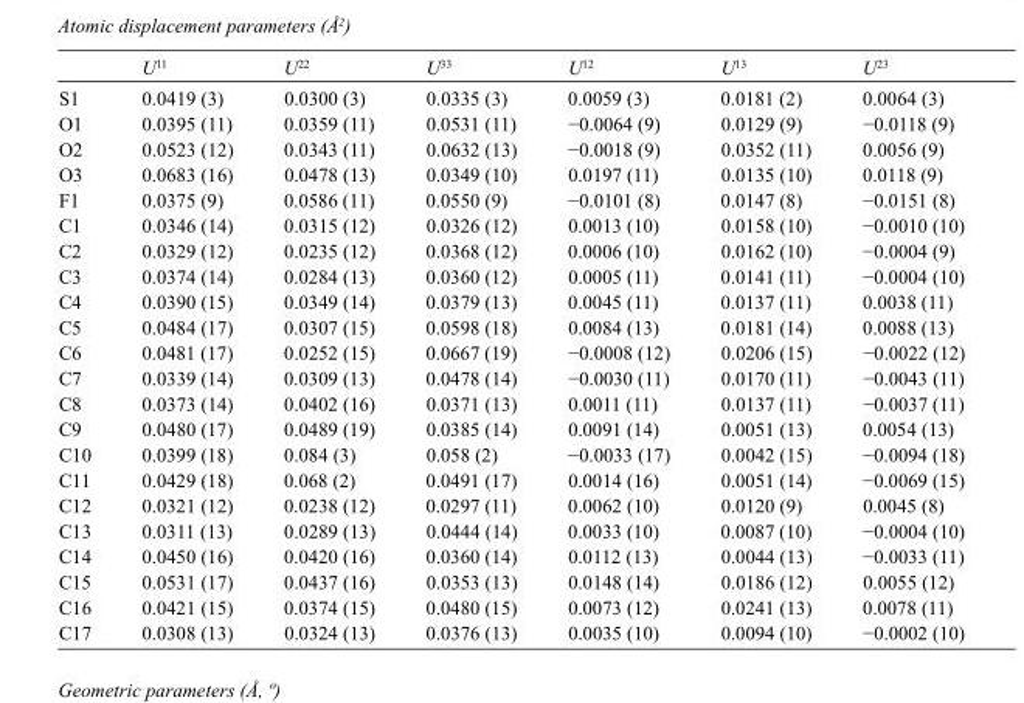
<table><thead><tr><td></td><td>U<sup>11</sup></td><td>U<sup>22</sup></td><td>U<sup>33</sup></td><td>U<sup>12</sup></td><td>U<sup>13</sup></td><td>U<sup>23</sup></td></tr></thead><tbody><tr><td>S1</td><td>0.0419 (3)</td><td>0.0300 (3)</td><td>0.0335 (3)</td><td>0.0059 (3)</td><td>0.0181 (2)</td><td>0.0064 (3)</td></tr><tr><td>O1</td><td>0.0395 (11)</td><td>0.0359 (11)</td><td>0.0531 (11)</td><td>−0.0064 (9)</td><td>0.0129 (9)</td><td>−0.0118 (9)</td></tr><tr><td>O2</td><td>0.0523 (12)</td><td>0.0343 (11)</td><td>0.0632 (13)</td><td>−0.0018 (9)</td><td>0.0352 (11)</td><td>0.0056 (9)</td></tr><tr><td>O3</td><td>0.0683 (16)</td><td>0.0478 (13)</td><td>0.0349 (10)</td><td>0.0197 (11)</td><td>0.0135 (10)</td><td>0.0118 (9)</td></tr><tr><td>F1</td><td>0.0375 (9)</td><td>0.0586 (11)</td><td>0.0550 (9)</td><td>−0.0101 (8)</td><td>0.0147 (8)</td><td>−0.0151 (8)</td></tr><tr><td>C1</td><td>0.0346 (14)</td><td>0.0315 (12)</td><td>0.0326 (12)</td><td>0.0013 (10)</td><td>0.0158 (10)</td><td>−0.0010 (10)</td></tr><tr><td>C2</td><td>0.0329 (12)</td><td>0.0235 (12)</td><td>0.0368 (12)</td><td>0.0006 (10)</td><td>0.0162 (10)</td><td>−0.0004 (9)</td></tr><tr><td>C3</td><td>0.0374 (14)</td><td>0.0284 (13)</td><td>0.0360 (12)</td><td>0.0005 (11)</td><td>0.0141 (11)</td><td>−0.0004 (10)</td></tr><tr><td>C4</td><td>0.0390 (15)</td><td>0.0349 (14)</td><td>0.0379 (13)</td><td>0.0045 (11)</td><td>0.0137 (11)</td><td>0.0038 (11)</td></tr><tr><td>C5</td><td>0.0484 (17)</td><td>0.0307 (15)</td><td>0.0598 (18)</td><td>0.0084 (13)</td><td>0.0181 (14)</td><td>0.0088 (13)</td></tr><tr><td>C6</td><td>0.0481 (17)</td><td>0.0252 (15)</td><td>0.0667 (19)</td><td>−0.0008 (12)</td><td>0.0206 (15)</td><td>−0.0022 (12)</td></tr><tr><td>C7</td><td>0.0339 (14)</td><td>0.0309 (13)</td><td>0.0478 (14)</td><td>−0.0030 (11)</td><td>0.0170 (11)</td><td>−0.0043 (11)</td></tr><tr><td>C8</td><td>0.0373 (14)</td><td>0.0402 (16)</td><td>0.0371 (13)</td><td>0.0011 (11)</td><td>0.0137 (11)</td><td>−0.0037 (11)</td></tr><tr><td>C9</td><td>0.0480 (17)</td><td>0.0489 (19)</td><td>0.0385 (14)</td><td>0.0091 (14)</td><td>0.0051 (13)</td><td>0.0054 (13)</td></tr><tr><td>C10</td><td>0.0399 (18)</td><td>0.084 (3)</td><td>0.058 (2)</td><td>−0.0033 (17)</td><td>0.0042 (15)</td><td>−0.0094 (18)</td></tr><tr><td>C11</td><td>0.0429 (18)</td><td>0.068 (2)</td><td>0.0491 (17)</td><td>0.0014 (16)</td><td>0.0051 (14)</td><td>−0.0069 (15)</td></tr><tr><td>C12</td><td>0.0321 (12)</td><td>0.0238 (12)</td><td>0.0297 (11)</td><td>0.0062 (10)</td><td>0.0120 (9)</td><td>0.0045 (8)</td></tr><tr><td>C13</td><td>0.0311 (13)</td><td>0.0289 (13)</td><td>0.0444 (14)</td><td>0.0033 (10)</td><td>0.0087 (10)</td><td>−0.0004 (10)</td></tr><tr><td>C14</td><td>0.0450 (16)</td><td>0.0420 (16)</td><td>0.0360 (14)</td><td>0.0112 (13)</td><td>0.0044 (13)</td><td>−0.0033 (11)</td></tr><tr><td>C15</td><td>0.0531 (17)</td><td>0.0437 (16)</td><td>0.0353 (13)</td><td>0.0148 (14)</td><td>0.0186 (12)</td><td>0.0055 (12)</td></tr><tr><td>C16</td><td>0.0421 (15)</td><td>0.0374 (15)</td><td>0.0480 (15)</td><td>0.0073 (12)</td><td>0.0241 (13)</td><td>0.0078 (11)</td></tr><tr><td>C17</td><td>0.0308 (13)</td><td>0.0324 (13)</td><td>0.0376 (13)</td><td>0.0035 (10)</td><td>0.0094 (10)</td><td>−0.0002 (10)</td></tr></tbody></table>